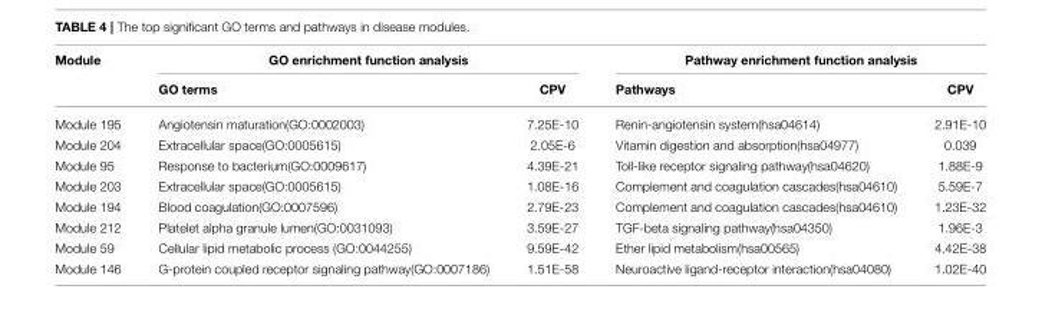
<table><thead><tr><td rowspan="2">Module</td><td colspan="2">GO enrichment function analysis</td><td colspan="2">Pathway enrichment function analysis</td></tr><tr><td>GO terms</td><td>CPV</td><td>Pathways</td><td>CPV</td></tr></thead><tbody><tr><td>Module 195</td><td>Angiotensin maturation(GO:0002003)</td><td>7.25E-10</td><td>Renin-angiotensin system(hsa04614)</td><td>2.91E-10</td></tr><tr><td>Module 204</td><td>Extracellular space(GO:0005615)</td><td>2.05E-6</td><td>Vitamin digestion and absorption(hsa04977)</td><td>0.039</td></tr><tr><td>Module 95</td><td>Response to bacterium(GO:0009617)</td><td>4.39E-21</td><td>Toll-like receptor signaling pathway(hsa04620)</td><td>1.88E-9</td></tr><tr><td>Module 203</td><td>Extracellular space(GO:0005615)</td><td>1.08E-16</td><td>Complement and coagulation cascades(hsa04610)</td><td>5.59E-7</td></tr><tr><td>Module 194</td><td>Blood coagulation(GO:0007596)</td><td>2.79E-23</td><td>Complement and coagulation cascades(hsa04610)</td><td>1.23E-32</td></tr><tr><td>Module 212</td><td>Platelet alpha granule lumen(GO:0031093)</td><td>3.59E-27</td><td>TGF-beta signaling pathway(hsa04350)</td><td>1.96E-3</td></tr><tr><td>Module 59</td><td>Cellular lipid metabolic process (GO:0044255)</td><td>9.59E-42</td><td>Ether lipid metabolism(hsa00565)</td><td>4.42E-38</td></tr><tr><td>Module 146</td><td>G-protein coupled receptor signaling pathway(GO:0007186)</td><td>1.51E-58</td><td>Neuroactive ligand-receptor interaction(hsa04080)</td><td>1.02E-40</td></tr></tbody></table>